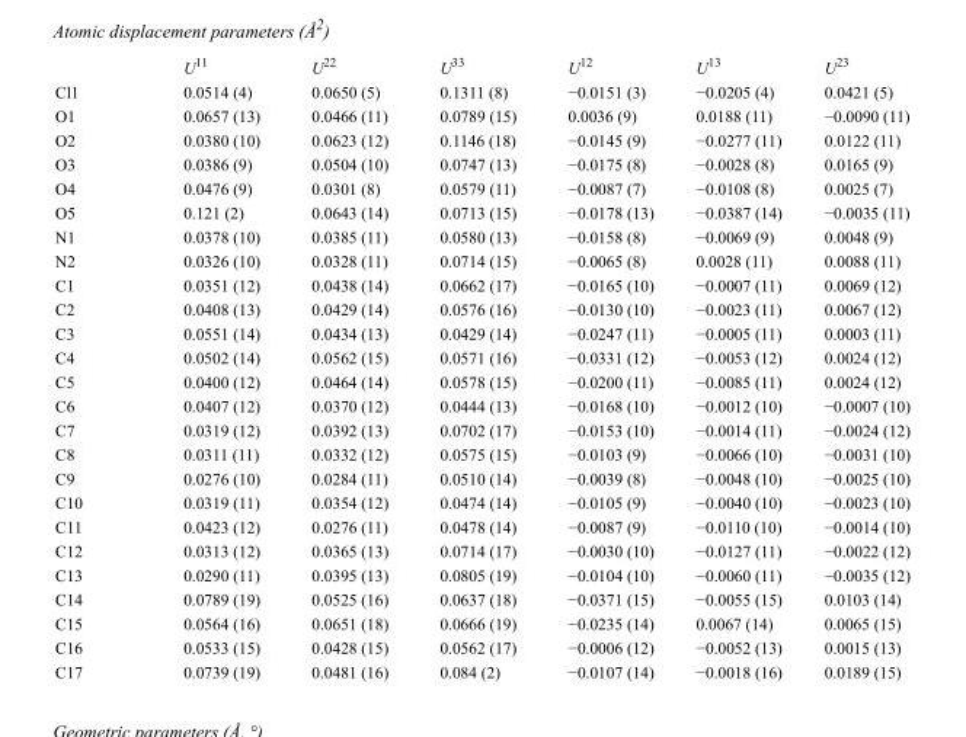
<table><thead><tr><td></td><td>U<sup>11</sup></td><td>U<sup>22</sup></td><td>U<sup>33</sup></td><td>U<sup>12</sup></td><td>U<sup>13</sup></td><td>U<sup>23</sup></td></tr></thead><tbody><tr><td>Cl1</td><td>0.0514 (4)</td><td>0.0650 (5)</td><td>0.1311 (8)</td><td>−0.0151 (3)</td><td>−0.0205 (4)</td><td>0.0421 (5)</td></tr><tr><td>O1</td><td>0.0657 (13)</td><td>0.0466 (11)</td><td>0.0789 (15)</td><td>0.0036 (9)</td><td>0.0188 (11)</td><td>−0.0090 (11)</td></tr><tr><td>O2</td><td>0.0380 (10)</td><td>0.0623 (12)</td><td>0.1146 (18)</td><td>−0.0145 (9)</td><td>−0.0277 (11)</td><td>0.0122 (11)</td></tr><tr><td>O3</td><td>0.0386 (9)</td><td>0.0504 (10)</td><td>0.0747 (13)</td><td>−0.0175 (8)</td><td>−0.0028 (8)</td><td>0.0165 (9)</td></tr><tr><td>O4</td><td>0.0476 (9)</td><td>0.0301 (8)</td><td>0.0579 (11)</td><td>−0.0087 (7)</td><td>−0.0108 (8)</td><td>0.0025 (7)</td></tr><tr><td>O5</td><td>0.121 (2)</td><td>0.0643 (14)</td><td>0.0713 (15)</td><td>−0.0178 (13)</td><td>−0.0387 (14)</td><td>−0.0035 (11)</td></tr><tr><td>N1</td><td>0.0378 (10)</td><td>0.0385 (11)</td><td>0.0580 (13)</td><td>−0.0158 (8)</td><td>−0.0069 (9)</td><td>0.0048 (9)</td></tr><tr><td>N2</td><td>0.0326 (10)</td><td>0.0328 (11)</td><td>0.0714 (15)</td><td>−0.0065 (8)</td><td>0.0028 (11)</td><td>0.0088 (11)</td></tr><tr><td>C1</td><td>0.0351 (12)</td><td>0.0438 (14)</td><td>0.0662 (17)</td><td>−0.0165 (10)</td><td>−0.0007 (11)</td><td>0.0069 (12)</td></tr><tr><td>C2</td><td>0.0408 (13)</td><td>0.0429 (14)</td><td>0.0576 (16)</td><td>−0.0130 (10)</td><td>−0.0023 (11)</td><td>0.0067 (12)</td></tr><tr><td>C3</td><td>0.0551 (14)</td><td>0.0434 (13)</td><td>0.0429 (14)</td><td>−0.0247 (11)</td><td>−0.0005 (11)</td><td>0.0003 (11)</td></tr><tr><td>C4</td><td>0.0502 (14)</td><td>0.0562 (15)</td><td>0.0571 (16)</td><td>−0.0331 (12)</td><td>−0.0053 (12)</td><td>0.0024 (12)</td></tr><tr><td>C5</td><td>0.0400 (12)</td><td>0.0464 (14)</td><td>0.0578 (15)</td><td>−0.0200 (11)</td><td>−0.0085 (11)</td><td>0.0024 (12)</td></tr><tr><td>C6</td><td>0.0407 (12)</td><td>0.0370 (12)</td><td>0.0444 (13)</td><td>−0.0168 (10)</td><td>−0.0012 (10)</td><td>−0.0007 (10)</td></tr><tr><td>C7</td><td>0.0319 (12)</td><td>0.0392 (13)</td><td>0.0702 (17)</td><td>−0.0153 (10)</td><td>−0.0014 (11)</td><td>−0.0024 (12)</td></tr><tr><td>C8</td><td>0.0311 (11)</td><td>0.0332 (12)</td><td>0.0575 (15)</td><td>−0.0103 (9)</td><td>−0.0066 (10)</td><td>−0.0031 (10)</td></tr><tr><td>C9</td><td>0.0276 (10)</td><td>0.0284 (11)</td><td>0.0510 (14)</td><td>−0.0039 (8)</td><td>−0.0048 (10)</td><td>−0.0025 (10)</td></tr><tr><td>C10</td><td>0.0319 (11)</td><td>0.0354 (12)</td><td>0.0474 (14)</td><td>−0.0105 (9)</td><td>−0.0040 (10)</td><td>−0.0023 (10)</td></tr><tr><td>C11</td><td>0.0423 (12)</td><td>0.0276 (11)</td><td>0.0478 (14)</td><td>−0.0087 (9)</td><td>−0.0110 (10)</td><td>−0.0014 (10)</td></tr><tr><td>C12</td><td>0.0313 (12)</td><td>0.0365 (13)</td><td>0.0714 (17)</td><td>−0.0030 (10)</td><td>−0.0127 (11)</td><td>−0.0022 (12)</td></tr><tr><td>C13</td><td>0.0290 (11)</td><td>0.0395 (13)</td><td>0.0805 (19)</td><td>−0.0104 (10)</td><td>−0.0060 (11)</td><td>−0.0035 (12)</td></tr><tr><td>C14</td><td>0.0789 (19)</td><td>0.0525 (16)</td><td>0.0637 (18)</td><td>−0.0371 (15)</td><td>−0.0055 (15)</td><td>0.0103 (14)</td></tr><tr><td>C15</td><td>0.0564 (16)</td><td>0.0651 (18)</td><td>0.0666 (19)</td><td>−0.0235 (14)</td><td>0.0067 (14)</td><td>0.0065 (15)</td></tr><tr><td>C16</td><td>0.0533 (15)</td><td>0.0428 (15)</td><td>0.0562 (17)</td><td>−0.0006 (12)</td><td>−0.0052 (13)</td><td>0.0015 (13)</td></tr><tr><td>C17</td><td>0.0739 (19)</td><td>0.0481 (16)</td><td>0.084 (2)</td><td>−0.0107 (14)</td><td>−0.0018 (16)</td><td>0.0189 (15)</td></tr></tbody></table>